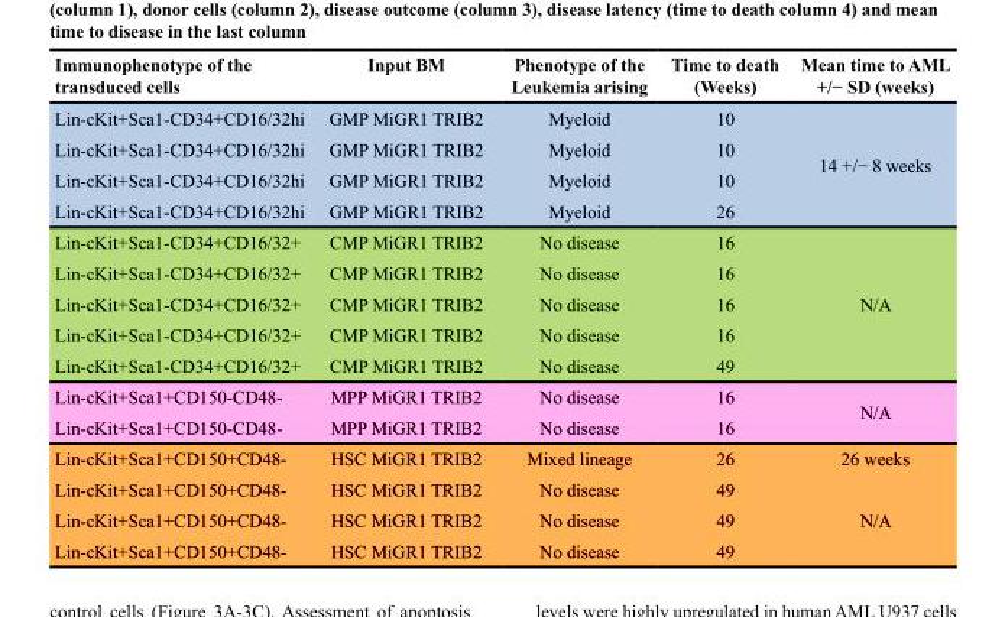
<table><thead><tr><td>Immunophenotype of the transduced cells</td><td>Input BM</td><td>Phenotype of the Leukemia arising</td><td>Time to death (Weeks)</td><td>Mean time to AML +/− SD (weeks)</td></tr></thead><tbody><tr><td>Lin-cKit+Sca1-CD34+CD16/32hi</td><td>GMP MiGR1 TRIB2</td><td>Myeloid</td><td>10</td><td rowspan="4">14 +/− 8 weeks</td></tr><tr><td>Lin-cKit+Sca1-CD34+CD16/32hi</td><td>GMP MiGR1 TRIB2</td><td>Myeloid</td><td>10</td></tr><tr><td>Lin-cKit+Sca1-CD34+CD16/32hi</td><td>GMP MiGR1 TRIB2</td><td>Myeloid</td><td>10</td></tr><tr><td>Lin-cKit+Sca1-CD34+CD16/32hi</td><td>GMP MiGR1 TRIB2</td><td>Myeloid</td><td>26</td></tr><tr><td>Lin-cKit+Sca1-CD34+CD16/32+</td><td>CMP MiGR1 TRIB2</td><td>No disease</td><td>16</td><td rowspan="5">N/A</td></tr><tr><td>Lin-cKit+Sca1-CD34+CD16/32+</td><td>CMP MiGR1 TRIB2</td><td>No disease</td><td>16</td></tr><tr><td>Lin-cKit+Sca1-CD34+CD16/32+</td><td>CMP MiGR1 TRIB2</td><td>No disease</td><td>16</td></tr><tr><td>Lin-cKit+Sca1-CD34+CD16/32+</td><td>CMP MiGR1 TRIB2</td><td>No disease</td><td>16</td></tr><tr><td>Lin-cKit+Sca1-CD34+CD16/32+</td><td>CMP MiGR1 TRIB2</td><td>No disease</td><td>49</td></tr><tr><td>Lin-cKit+Sca1+CD150-CD48-</td><td>MPP MiGR1 TRIB2</td><td>No disease</td><td>16</td><td rowspan="2">N/A</td></tr><tr><td>Lin-cKit+Sca1+CD150-CD48-</td><td>MPP MiGR1 TRIB2</td><td>No disease</td><td>16</td></tr><tr><td>Lin-cKit+Sca1+CD150+CD48-</td><td>HSC MiGR1 TRIB2</td><td>Mixed lineage</td><td>26</td><td>26 weeks</td></tr><tr><td>Lin-cKit+Sca1+CD150+CD48-</td><td>HSC MiGR1 TRIB2</td><td>No disease</td><td>49</td><td rowspan="3">N/A</td></tr><tr><td>Lin-cKit+Sca1+CD150+CD48-</td><td>HSC MiGR1 TRIB2</td><td>No disease</td><td>49</td></tr><tr><td>Lin-cKit+Sca1+CD150+CD48-</td><td>HSC MiGR1 TRIB2</td><td>No disease</td><td>49</td></tr></tbody></table>